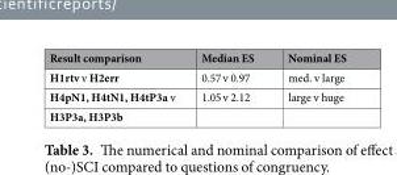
<table><thead><tr><td>Result comparison</td><td>Median ES</td><td>Nominal ES</td></tr></thead><tbody><tr><td>H1rtv v H2err</td><td>0.57 v 0.97</td><td>med. v large</td></tr><tr><td>H4pN1, H4tN1, H4tP3a v</td><td>1.05 v 2.12</td><td>large v huge</td></tr><tr><td>H3P3a, H3P3b</td><td></td><td></td></tr></tbody></table>